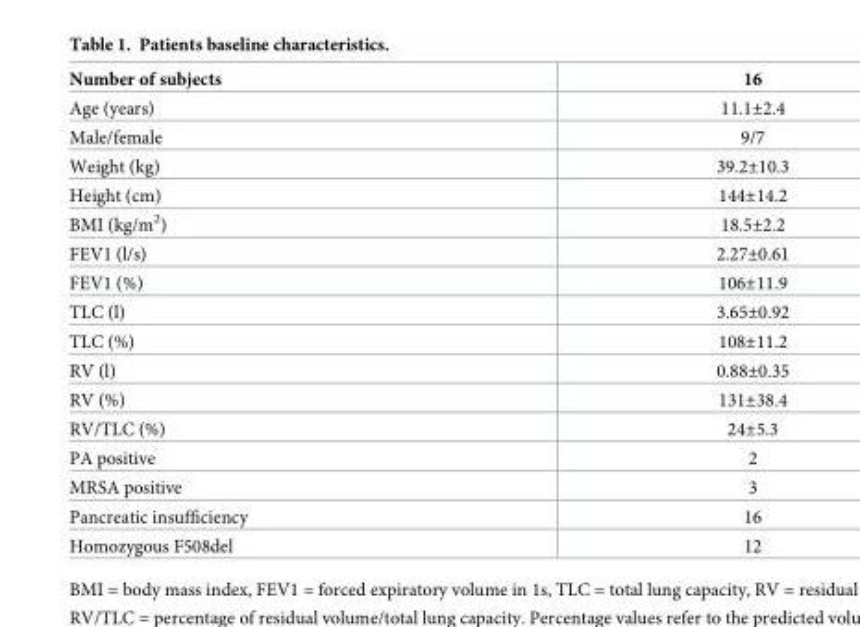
<table><thead><tr><td>Number of subjects</td><td>16</td></tr></thead><tbody><tr><td>Age (years)</td><td>11.1±2.4</td></tr><tr><td>Male/female</td><td>9/7</td></tr><tr><td>Weight (kg)</td><td>39.2±10.3</td></tr><tr><td>Height (cm)</td><td>144±14.2</td></tr><tr><td>BMI (kg/m<sup>2</sup>)</td><td>18.5±2.2</td></tr><tr><td>FEV1 (l/s)</td><td>2.27±0.61</td></tr><tr><td>FEV1 (%)</td><td>106±11.9</td></tr><tr><td>TLC (l)</td><td>3.65±0.92</td></tr><tr><td>TLC (%)</td><td>108±11.2</td></tr><tr><td>RV (l)</td><td>0.88±0.35</td></tr><tr><td>RV (%)</td><td>131±38.4</td></tr><tr><td>RV/TLC (%)</td><td>24±5.3</td></tr><tr><td>PA positive</td><td>2</td></tr><tr><td>MRSA positive</td><td>3</td></tr><tr><td>Pancreatic insufficiency</td><td>16</td></tr><tr><td>Homozygous F508del</td><td>12</td></tr></tbody></table>